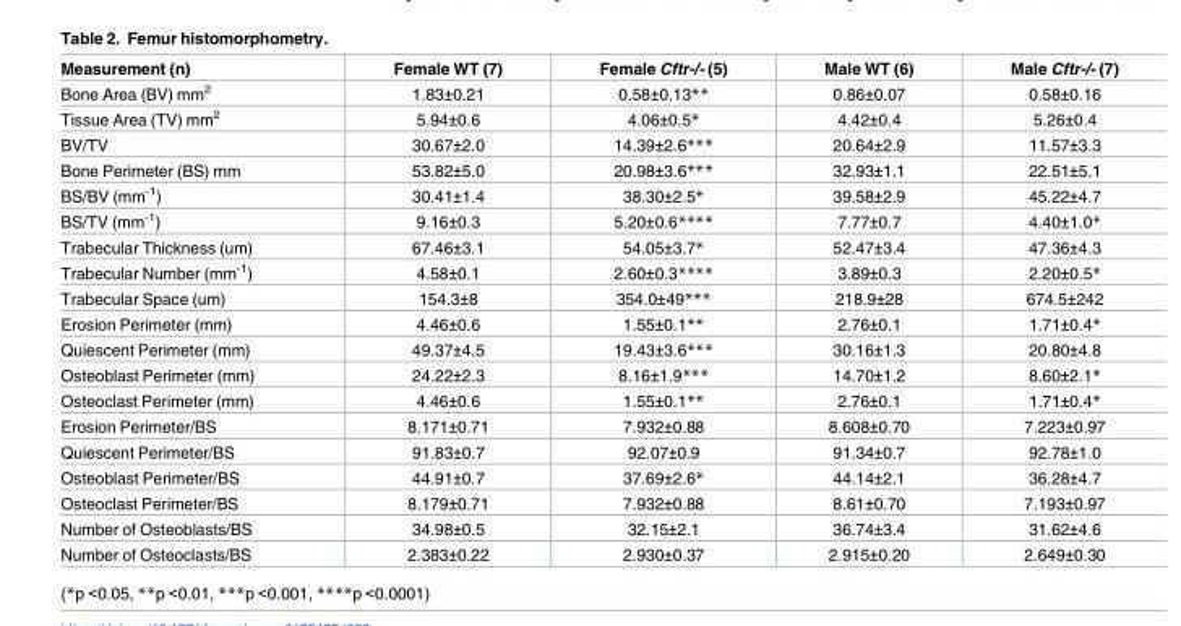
<table><thead><tr><td>Measurement (n)</td><td>Female WT (7)</td><td>Female Cftr-/- (5)</td><td>Male WT (6)</td><td>Male Cftr-/- (7)</td></tr></thead><tbody><tr><td>Bone Area (BV) mm<sup>2</sup></td><td>1.83±0.21</td><td>0.58±0.13**</td><td>0.86±0.07</td><td>0.58±0.16</td></tr><tr><td>Tissue Area (TV) mm<sup>2</sup></td><td>5.94±0.6</td><td>4.06±0.5*</td><td>4.42±0.4</td><td>5.26±0.4</td></tr><tr><td>BV/TV</td><td>30.67±2.0</td><td>14.39±2.6***</td><td>20.64±2.9</td><td>11.57±3.3</td></tr><tr><td>Bone Perimeter (BS) mm</td><td>53.82±5.0</td><td>20.98±3.6***</td><td>32.93±1.1</td><td>22.51±5.1</td></tr><tr><td>BS/BV (mm<sup>-1</sup>)</td><td>30.41±1.4</td><td>38.30±2.5*</td><td>39.58±2.9</td><td>45.22±4.7</td></tr><tr><td>BS/TV (mm<sup>-1</sup>)</td><td>9.16±0.3</td><td>5.20±0.6****</td><td>7.77±0.7</td><td>4.40±1.0*</td></tr><tr><td>Trabecular Thickness (um)</td><td>67.46±3.1</td><td>54.05±3.7*</td><td>52.47±3.4</td><td>47.36±4.3</td></tr><tr><td>Trabecular Number (mm<sup>-1</sup>)</td><td>4.58±0.1</td><td>2.60±0.3****</td><td>3.89±0.3</td><td>2.20±0.5*</td></tr><tr><td>Trabecular Space (um)</td><td>154.3±8</td><td>354.0±49***</td><td>218.9±28</td><td>674.5±242</td></tr><tr><td>Erosion Perimeter (mm)</td><td>4.46±0.6</td><td>1.55±0.1**</td><td>2.76±0.1</td><td>1.71±0.4*</td></tr><tr><td>Quiescent Perimeter (mm)</td><td>49.37±4.5</td><td>19.43±3.6***</td><td>30.16±1.3</td><td>20.80±4.8</td></tr><tr><td>Osteoblast Perimeter (mm)</td><td>24.22±2.3</td><td>8.16±1.9***</td><td>14.70±1.2</td><td>8.60±2.1*</td></tr><tr><td>Osteoclast Perimeter (mm)</td><td>4.46±0.6</td><td>1.55±0.1**</td><td>2.76±0.1</td><td>1.71±0.4*</td></tr><tr><td>Erosion Perimeter/BS</td><td>8.171±0.71</td><td>7.932±0.88</td><td>8.608±0.70</td><td>7.223±0.97</td></tr><tr><td>Quiescent Perimeter/BS</td><td>91.83±0.7</td><td>92.07±0.9</td><td>91.34±0.7</td><td>92.78±1.0</td></tr><tr><td>Osteoblast Perimeter/BS</td><td>44.91±0.7</td><td>37.69±2.6*</td><td>44.14±2.1</td><td>36.28±4.7</td></tr><tr><td>Osteoclast Perimeter/BS</td><td>8.179±0.71</td><td>7.932±0.88</td><td>8.61±0.70</td><td>7.193±0.97</td></tr><tr><td>Number of Osteoblasts/BS</td><td>34.98±0.5</td><td>32.15±2.1</td><td>36.74±3.4</td><td>31.62±4.6</td></tr><tr><td>Number of Osteoclasts/BS</td><td>2.383±0.22</td><td>2.930±0.37</td><td>2.915±0.20</td><td>2.649±0.30</td></tr></tbody></table>